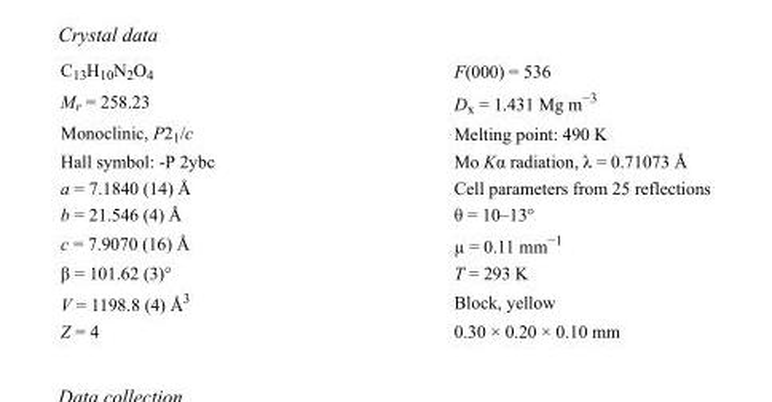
<table><tbody><tr><td>C<sub>13</sub>H<sub>10</sub>N<sub>2</sub>O<sub>4</sub></td><td>F(000) = 536</td></tr><tr><td>M<sub>r</sub> = 258.23</td><td>D<sub>x</sub> = 1.431 Mg m<sup>−3</sup></td></tr><tr><td>Monoclinic, P2<sub>1</sub>/c</td><td>Melting point: 490 K</td></tr><tr><td>Hall symbol: -P 2ybc</td><td>Mo Kα radiation, λ = 0.71073 Å</td></tr><tr><td>a = 7.1840 (14) Å</td><td>Cell parameters from 25 reflections</td></tr><tr><td>b = 21.546 (4) Å</td><td>θ = 10–13°</td></tr><tr><td>c = 7.9070 (16) Å</td><td>µ = 0.11 mm<sup>−1</sup></td></tr><tr><td>β = 101.62 (3)°</td><td>T = 293 K</td></tr><tr><td>V = 1198.8 (4) Å<sup>3</sup></td><td>Block, yellow</td></tr><tr><td>Z = 4</td><td>0.30 × 0.20 × 0.10 mm</td></tr></tbody></table>